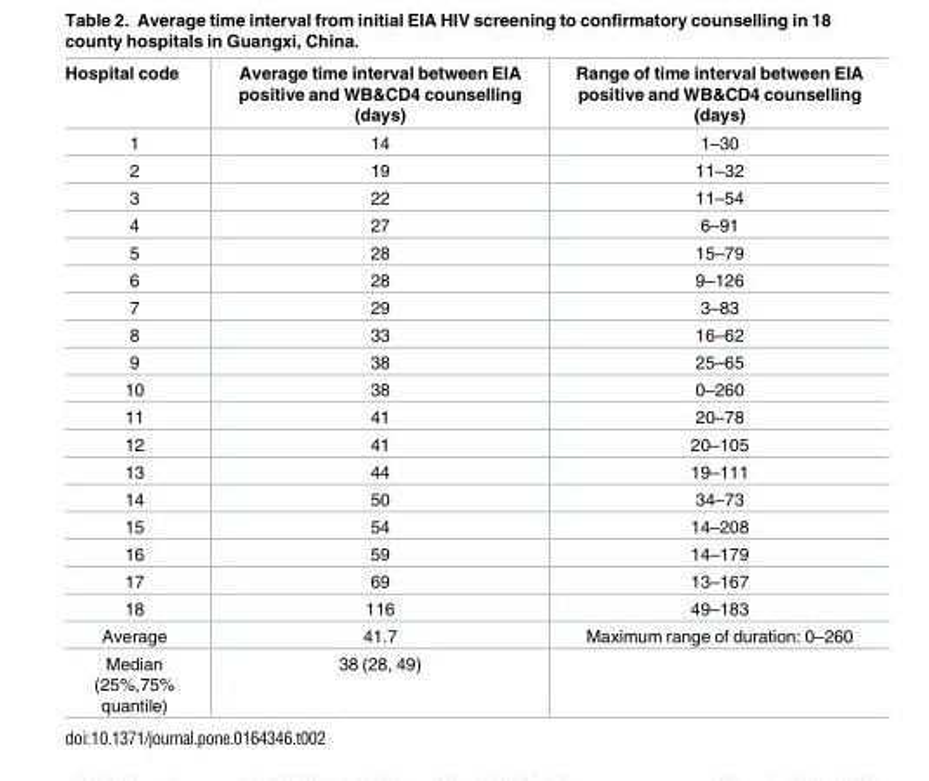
<table><thead><tr><td>Hospital code</td><td>Average time interval between EIA positive and WB&amp;CD4 counselling (days)</td><td>Range of time interval between EIA positive and WB&amp;CD4 counselling (days)</td></tr></thead><tbody><tr><td>1</td><td>14</td><td>1–30</td></tr><tr><td>2</td><td>19</td><td>11–32</td></tr><tr><td>3</td><td>22</td><td>11–54</td></tr><tr><td>4</td><td>27</td><td>6–91</td></tr><tr><td>5</td><td>28</td><td>15–79</td></tr><tr><td>6</td><td>28</td><td>9–126</td></tr><tr><td>7</td><td>29</td><td>3–83</td></tr><tr><td>8</td><td>33</td><td>16–62</td></tr><tr><td>9</td><td>38</td><td>25–65</td></tr><tr><td>10</td><td>38</td><td>0–260</td></tr><tr><td>11</td><td>41</td><td>20–78</td></tr><tr><td>12</td><td>41</td><td>20–105</td></tr><tr><td>13</td><td>44</td><td>19–111</td></tr><tr><td>14</td><td>50</td><td>34–73</td></tr><tr><td>15</td><td>54</td><td>14–208</td></tr><tr><td>16</td><td>59</td><td>14–179</td></tr><tr><td>17</td><td>69</td><td>13–167</td></tr><tr><td>18</td><td>116</td><td>49–183</td></tr><tr><td>Average</td><td>41.7</td><td>Maximum range of duration: 0–260</td></tr><tr><td>Median (25%,75% quantile)</td><td>38 (28, 49)</td><td></td></tr></tbody></table>